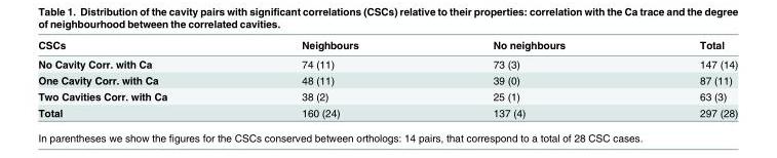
<table><thead><tr><td>CSCs</td><td>Neighbours</td><td>No neighbours</td><td>Total</td></tr></thead><tbody><tr><td>No Cavity Corr. with Ca</td><td>74 (11)</td><td>73 (3)</td><td>147 (14)</td></tr><tr><td>One Cavity Corr. with Ca</td><td>48 (11)</td><td>39 (0)</td><td>87 (11)</td></tr><tr><td>Two Cavities Corr. with Ca</td><td>38 (2)</td><td>25 (1)</td><td>63 (3)</td></tr><tr><td>Total</td><td>160 (24)</td><td>137 (4)</td><td>297 (28)</td></tr></tbody></table>